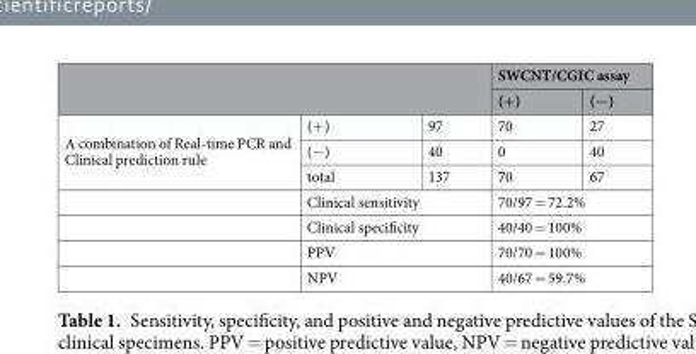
<table><thead><tr><td rowspan="2"></td><td rowspan="2"></td><td rowspan="2"></td><td colspan="2">SWCNT/CGIC assay</td></tr><tr><td>(+)</td><td>(−)</td></tr></thead><tbody><tr><td rowspan="7">A combination of Real-time PCR and Clinical prediction rule</td><td>(+)</td><td>97</td><td>70</td><td>27</td></tr><tr><td>(−)</td><td>40</td><td>0</td><td>40</td></tr><tr><td>total</td><td>137</td><td>70</td><td>67</td></tr><tr><td colspan="2">Clinical sensitivity</td><td colspan="2">70/97 = 72.2%</td></tr><tr><td colspan="2">Clinical specificity</td><td colspan="2">40/40 = 100%</td></tr><tr><td colspan="2">PPV</td><td colspan="2">70/70 = 100%</td></tr><tr><td colspan="2">NPV</td><td colspan="2">40/67 = 59.7%</td></tr></tbody></table>